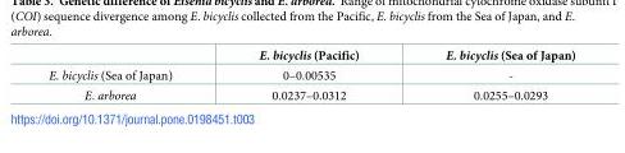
<table><thead><tr><td></td><td>E. bicyclis (Pacific)</td><td>E. bicyclis (Sea of Japan)</td></tr></thead><tbody><tr><td>E. bicyclis (Sea of Japan)</td><td>0–0.00535</td><td>-</td></tr><tr><td>E. arborea</td><td>0.0237–0.0312</td><td>0.0255–0.0293</td></tr></tbody></table>